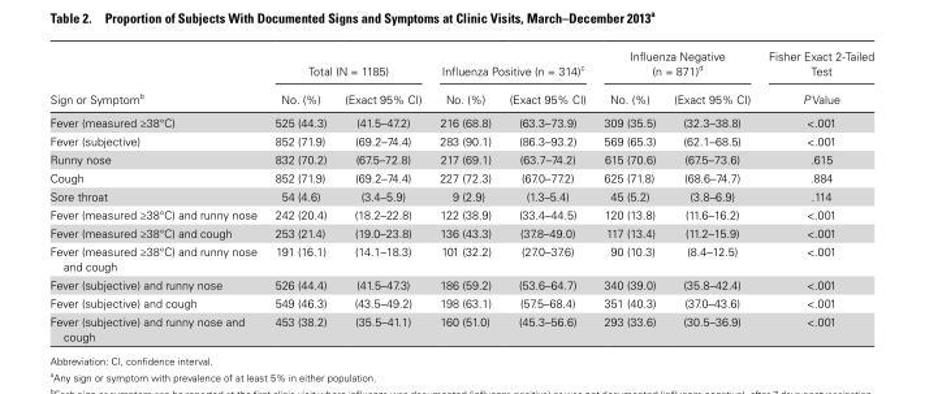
<table><thead><tr><td rowspan="2">Sign or Symptom<sup>b</sup></td><td colspan="2">Total (N = 1185)</td><td colspan="2">Influenza Positive (n = 314)<sup>c</sup></td><td colspan="2">Influenza Negative (n = 871)<sup>d</sup></td><td rowspan="2">Fisher Exact 2-Tailed Test P Value</td></tr><tr><td>No. (%)</td><td>(Exact 95% CI)</td><td>No. (%)</td><td>(Exact 95% CI)</td><td>No. (%)</td><td>(Exact 95% CI)</td></tr></thead><tbody><tr><td>Fever (measured ≥38°C)</td><td>525 (44.3)</td><td>(41.5–47.2)</td><td>216 (68.8)</td><td>(63.3–73.9)</td><td>309 (35.5)</td><td>(32.3–38.8)</td><td>&lt;.001</td></tr><tr><td>Fever (subjective)</td><td>852 (71.9)</td><td>(69.2–74.4)</td><td>283 (90.1)</td><td>(86.3–93.2)</td><td>569 (65.3)</td><td>(62.1–68.5)</td><td>&lt;.001</td></tr><tr><td>Runny nose</td><td>832 (70.2)</td><td>(67.5–72.8)</td><td>217 (69.1)</td><td>(63.7–74.2)</td><td>615 (70.6)</td><td>(67.5–73.6)</td><td>.615</td></tr><tr><td>Cough</td><td>852 (71.9)</td><td>(69.2–74.4)</td><td>227 (72.3)</td><td>(67.0–77.2)</td><td>625 (71.8)</td><td>(68.6–74.7)</td><td>.884</td></tr><tr><td>Sore throat</td><td>54 (4.6)</td><td>(3.4–5.9)</td><td>9 (2.9)</td><td>(1.3–5.4)</td><td>45 (5.2)</td><td>(3.8–6.9)</td><td>.114</td></tr><tr><td>Fever (measured ≥38°C) and runny nose</td><td>242 (20.4)</td><td>(18.2–22.8)</td><td>122 (38.9)</td><td>(33.4–44.5)</td><td>120 (13.8)</td><td>(11.6–16.2)</td><td>&lt;.001</td></tr><tr><td>Fever (measured ≥38°C) and cough</td><td>253 (21.4)</td><td>(19.0–23.8)</td><td>136 (43.3)</td><td>(37.8–49.0)</td><td>117 (13.4)</td><td>(11.2–15.9)</td><td>&lt;.001</td></tr><tr><td>Fever (measured ≥38°C) and runny nose and cough</td><td>191 (16.1)</td><td>(14.1–18.3)</td><td>101 (32.2)</td><td>(27.0–37.6)</td><td>90 (10.3)</td><td>(8.4–12.5)</td><td>&lt;.001</td></tr><tr><td>Fever (subjective) and runny nose</td><td>526 (44.4)</td><td>(41.5–47.3)</td><td>186 (59.2)</td><td>(53.6–64.7)</td><td>340 (39.0)</td><td>(35.8–42.4)</td><td>&lt;.001</td></tr><tr><td>Fever (subjective) and cough</td><td>549 (46.3)</td><td>(43.5–49.2)</td><td>198 (63.1)</td><td>(57.5–68.4)</td><td>351 (40.3)</td><td>(37.0–43.6)</td><td>&lt;.001</td></tr><tr><td>Fever (subjective) and runny nose and cough</td><td>453 (38.2)</td><td>(35.5–41.1)</td><td>160 (51.0)</td><td>(45.3–56.6)</td><td>293 (33.6)</td><td>(30.5–36.9)</td><td>&lt;.001</td></tr></tbody></table>